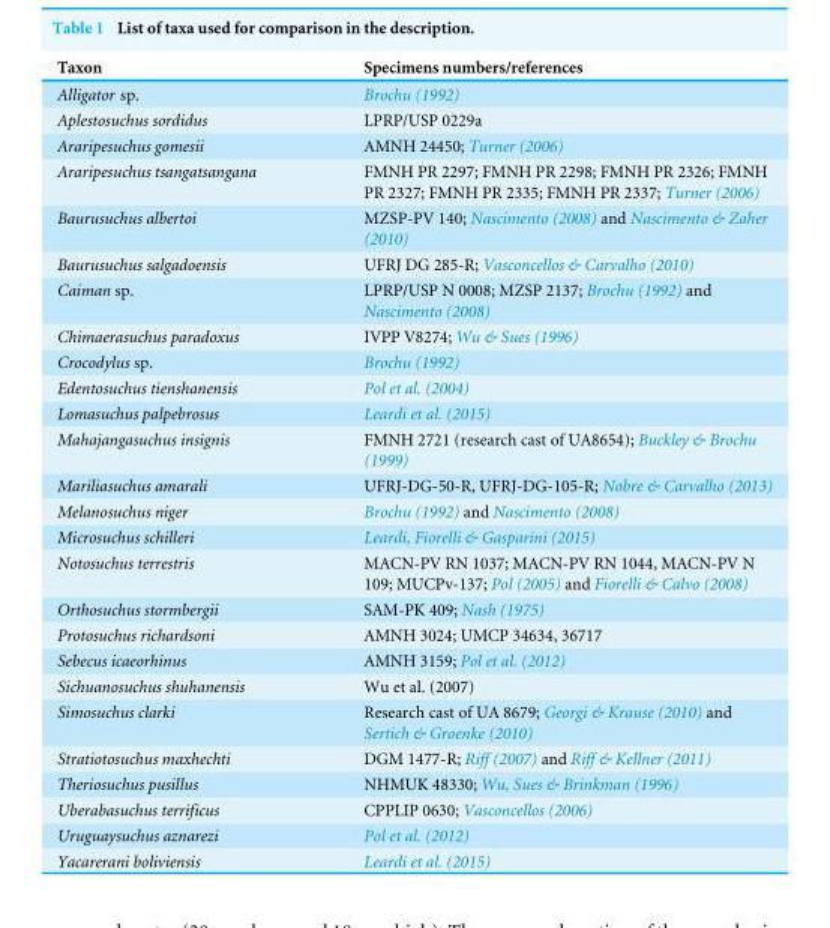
<table><thead><tr><td>Taxon</td><td>Specimens numbers/references</td></tr></thead><tbody><tr><td>Alligator sp.</td><td>Brochu (1992)</td></tr><tr><td>Aplestosuchus sordidus</td><td>LPRP/USP 0229a</td></tr><tr><td>Araripesuchus gomesii</td><td>AMNH 24450; Turner (2006)</td></tr><tr><td>Araripesuchus tsangatsangana</td><td>FMNH PR 2297; FMNH PR 2298; FMNH PR 2326; FMNH PR 2327; FMNH PR 2335; FMNH PR 2337; Turner (2006)</td></tr><tr><td>Baurusuchus albertoi</td><td>MZSP-PV 140; Nascimento (2008) and Nascimento &amp; Zaher (2010)</td></tr><tr><td>Baurusuchus salgadoensis</td><td>UFRJ DG 285-R; Vasconcellos &amp; Carvalho (2010)</td></tr><tr><td>Caiman sp.</td><td>LPRP/USP N 0008; MZSP 2137; Brochu (1992) and Nascimento (2008)</td></tr><tr><td>Chimaerasuchus paradoxus</td><td>IVPP V8274; Wu &amp; Sues (1996)</td></tr><tr><td>Crocodylus sp.</td><td>Brochu (1992)</td></tr><tr><td>Edentosuchus tienshanensis</td><td>Pol et al. (2004)</td></tr><tr><td>Lomasuchus palpebrosus</td><td>Leardi et al. (2015)</td></tr><tr><td>Mahajangasuchus insignis</td><td>FMNH 2721 (research cast of UA8654); Buckley &amp; Brochu (1999)</td></tr><tr><td>Mariliasuchus amarali</td><td>UFRJ-DG-50-R, UFRJ-DG-105-R; Nobre &amp; Carvalho (2013)</td></tr><tr><td>Melanosuchus niger</td><td>Brochu (1992) and Nascimento (2008)</td></tr><tr><td>Microsuchus schilleri</td><td>Leardi, Fiorelli &amp; Gasparini (2015)</td></tr><tr><td>Notosuchus terrestris</td><td>MACN-PV RN 1037; MACN-PV RN 1044, MACN-PV N 109; MUCPv-137; Pol (2005) and Fiorelli &amp; Calvo (2008)</td></tr><tr><td>Orthosuchus stormbergii</td><td>SAM-PK 409; Nash (1975)</td></tr><tr><td>Protosuchus richardsoni</td><td>AMNH 3024; UMCP 34634, 36717</td></tr><tr><td>Sebecus icaeorhinus</td><td>AMNH 3159; Pol et al. (2012)</td></tr><tr><td>Sichuanosuchus shuhanensis</td><td>Wu et al. (2007)</td></tr><tr><td>Simosuchus clarki</td><td>Research cast of UA 8679; Georgi &amp; Krause (2010) and Sertich &amp; Groenke (2010)</td></tr><tr><td>Stratiotosuchus maxhechti</td><td>DGM 1477-R; Riff (2007) and Riff &amp; Kellner (2011)</td></tr><tr><td>Theriosuchus pusillus</td><td>NHMUK 48330; Wu, Sues &amp; Brinkman (1996)</td></tr><tr><td>Uberabasuchus terrificus</td><td>CPPLIP 0630; Vasconcellos (2006)</td></tr><tr><td>Uruguaysuchus aznarezi</td><td>Pol et al. (2012)</td></tr><tr><td>Yacarerani boliviensis</td><td>Leardi et al. (2015)</td></tr></tbody></table>